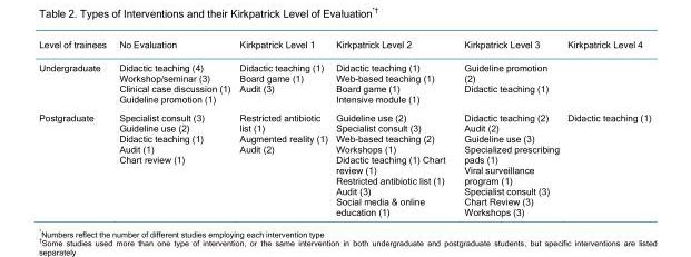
<table><thead><tr><td>Level of trainees</td><td>No Evaluation</td><td>Kirkpatrick Level 1</td><td>Kirkpatrick Level 2</td><td>Kirkpatrick Level 3</td><td>Kirkpatrick Level 4</td></tr></thead><tbody><tr><td>Undergraduate</td><td>Didactic teaching (4) Workshop/seminar (3) Clinical case discussion (1) Guideline promotion (1)</td><td>Didactic teaching (1) Board game (1) Audit (3)</td><td>Didactic teaching (1) Web-based teaching (1) Board game (1) Intensive module (1)</td><td>Guideline promotion (2) Didactic teaching (1)</td><td></td></tr><tr><td>Postgraduate</td><td>Specialist consult (3) Guideline use (2) Didactic teaching (1) Audit (1) Chart review (1)</td><td>Restricted antibiotic list (1) Augmented reality (1) Audit (2)</td><td>Guideline use (2) Specialist consult (3) Web-based teaching (2) Workshops (1) Didactic teaching (1) Chart review (1) Restricted antibiotic list (1) Audit (3) Social media &amp; online education (1)</td><td>Didactic teaching (2) Audit (2) Guideline use (3) Specialized prescribing pads (1) Viral surveillance program (1) Specialist consult (3) Chart Review (3) Workshops (3)</td><td>Didactic teaching (1)</td></tr></tbody></table>